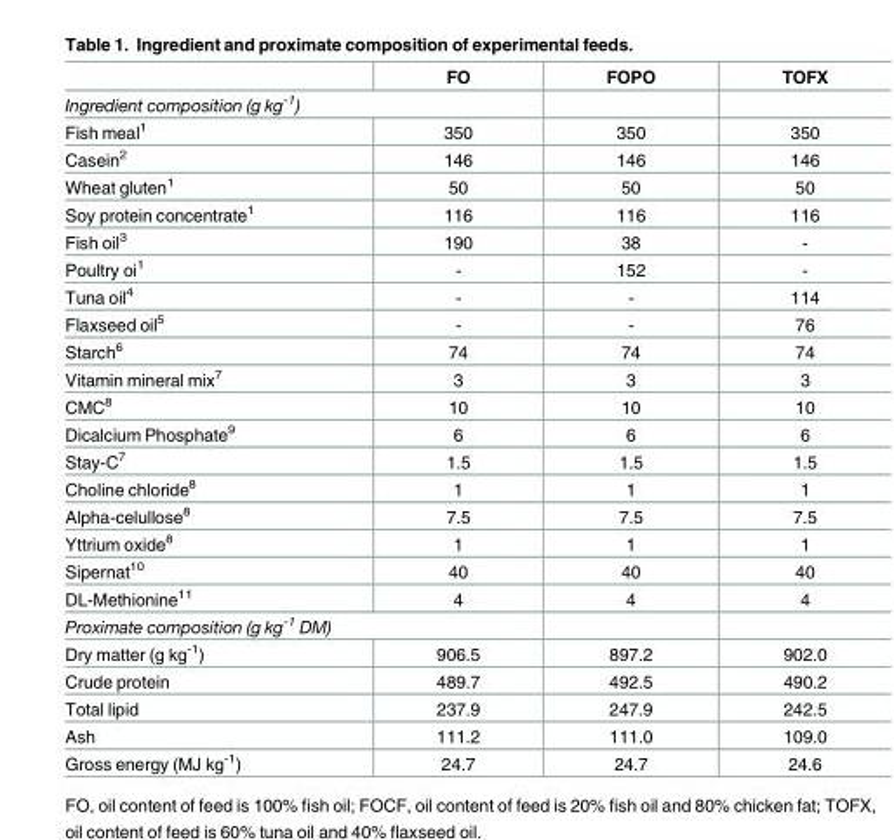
<table><thead><tr><td></td><td>FO</td><td>FOPO</td><td>TOFX</td></tr></thead><tbody><tr><td colspan="4">Ingredient composition (g kg<sup>-1</sup>)</td></tr><tr><td>Fish meal<sup>1</sup></td><td>350</td><td>350</td><td>350</td></tr><tr><td>Casein<sup>2</sup></td><td>146</td><td>146</td><td>146</td></tr><tr><td>Wheat gluten<sup>1</sup></td><td>50</td><td>50</td><td>50</td></tr><tr><td>Soy protein concentrate<sup>1</sup></td><td>116</td><td>116</td><td>116</td></tr><tr><td>Fish oil<sup>3</sup></td><td>190</td><td>38</td><td>-</td></tr><tr><td>Poultry oi<sup>1</sup></td><td>-</td><td>152</td><td>-</td></tr><tr><td>Tuna oil<sup>4</sup></td><td>-</td><td>-</td><td>114</td></tr><tr><td>Flaxseed oil<sup>5</sup></td><td>-</td><td>-</td><td>76</td></tr><tr><td>Starch<sup>6</sup></td><td>74</td><td>74</td><td>74</td></tr><tr><td>Vitamin mineral mix<sup>7</sup></td><td>3</td><td>3</td><td>3</td></tr><tr><td>CMC<sup>8</sup></td><td>10</td><td>10</td><td>10</td></tr><tr><td>Dicalcium Phosphate<sup>9</sup></td><td>6</td><td>6</td><td>6</td></tr><tr><td>Stay-C<sup>7</sup></td><td>1.5</td><td>1.5</td><td>1.5</td></tr><tr><td>Choline chloride<sup>8</sup></td><td>1</td><td>1</td><td>1</td></tr><tr><td>Alpha-celullose<sup>8</sup></td><td>7.5</td><td>7.5</td><td>7.5</td></tr><tr><td>Yttrium oxide<sup>8</sup></td><td>1</td><td>1</td><td>1</td></tr><tr><td>Sipernat<sup>10</sup></td><td>40</td><td>40</td><td>40</td></tr><tr><td>DL-Methionine<sup>11</sup></td><td>4</td><td>4</td><td>4</td></tr><tr><td colspan="4">Proximate composition (g kg<sup>-1</sup> DM)</td></tr><tr><td>Dry matter (g kg<sup>-1</sup>)</td><td>906.5</td><td>897.2</td><td>902.0</td></tr><tr><td>Crude protein</td><td>489.7</td><td>492.5</td><td>490.2</td></tr><tr><td>Total lipid</td><td>237.9</td><td>247.9</td><td>242.5</td></tr><tr><td>Ash</td><td>111.2</td><td>111.0</td><td>109.0</td></tr><tr><td>Gross energy (MJ kg<sup>-1</sup>)</td><td>24.7</td><td>24.7</td><td>24.6</td></tr></tbody></table>